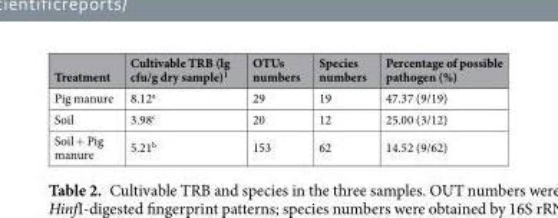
<table><thead><tr><td>Treatment</td><td>Cultivable TRB (lg cfu/g dry sample)<sup>1</sup></td><td>OTUs numbers</td><td>Species numbers</td><td>Percentage of possible pathogen (%)</td></tr></thead><tbody><tr><td>Pig manure</td><td>8.12<sup>a</sup></td><td>29</td><td>19</td><td>47.37 (9/19)</td></tr><tr><td>Soil</td><td>3.98<sup>c</sup></td><td>20</td><td>12</td><td>25.00 (3/12)</td></tr><tr><td>Soil + Pig manure</td><td>5.21<sup>b</sup></td><td>153</td><td>62</td><td>14.52 (9/62)</td></tr></tbody></table>